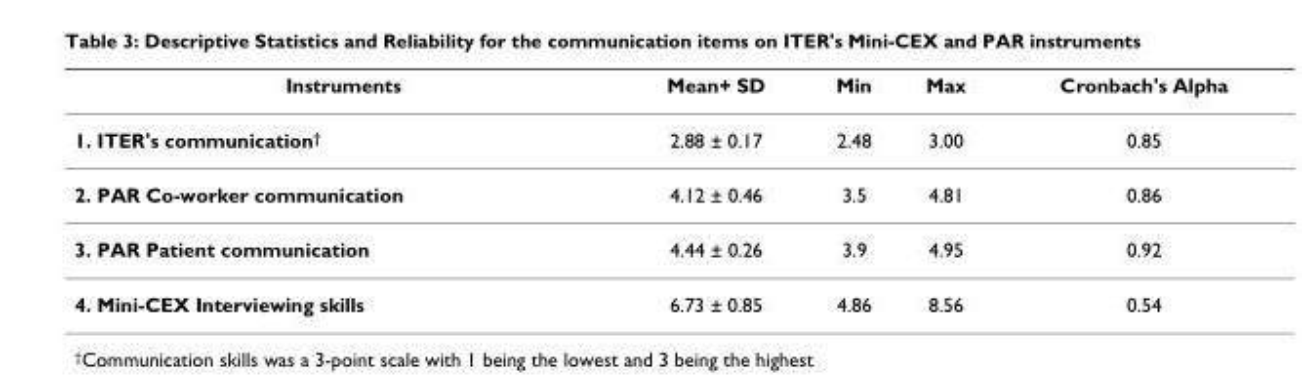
<table><thead><tr><td>Instruments</td><td>Mean+ SD</td><td>Min</td><td>Max</td><td>Cronbach&#x27;s Alpha</td></tr></thead><tbody><tr><td>1. ITER&#x27;s communication<sup>†</sup></td><td>2.88 ± 0.17</td><td>2.48</td><td>3.00</td><td>0.85</td></tr><tr><td>2. PAR Co-worker communication</td><td>4.12 ± 0.46</td><td>3.5</td><td>4.81</td><td>0.86</td></tr><tr><td>3. PAR Patient communication</td><td>4.44 ± 0.26</td><td>3.9</td><td>4.95</td><td>0.92</td></tr><tr><td>4. Mini-CEX Interviewing skills</td><td>6.73 ± 0.85</td><td>4.86</td><td>8.56</td><td>0.54</td></tr></tbody></table>